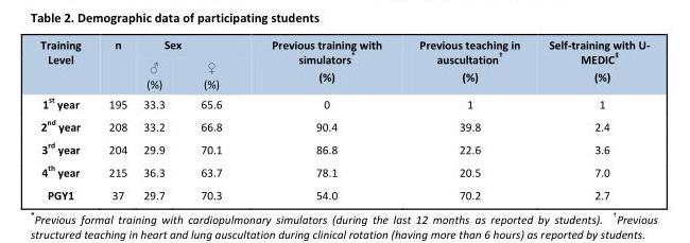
<table><thead><tr><td rowspan="2">Training Level</td><td rowspan="2">n</td><td colspan="2">Sex</td><td rowspan="2">Previous training with simulators* (%)</td><td rowspan="2">Previous teaching in auscultation† (%)</td><td rowspan="2">Self-training with U- MEDIC‡ (%)</td></tr><tr><td>♂ (%)</td><td>♀ (%)</td></tr></thead><tbody><tr><td>1st year</td><td>195</td><td>33.3</td><td>65.6</td><td>0</td><td>1</td><td>1</td></tr><tr><td>2nd year</td><td>208</td><td>33.2</td><td>66.8</td><td>90.4</td><td>39.8</td><td>2.4</td></tr><tr><td>3rd year</td><td>204</td><td>29.9</td><td>70.1</td><td>86.8</td><td>22.6</td><td>3.6</td></tr><tr><td>4th year</td><td>215</td><td>36.3</td><td>63.7</td><td>78.1</td><td>20.5</td><td>7.0</td></tr><tr><td>PGY1</td><td>37</td><td>29.7</td><td>70.3</td><td>54.0</td><td>70.2</td><td>2.7</td></tr></tbody></table>